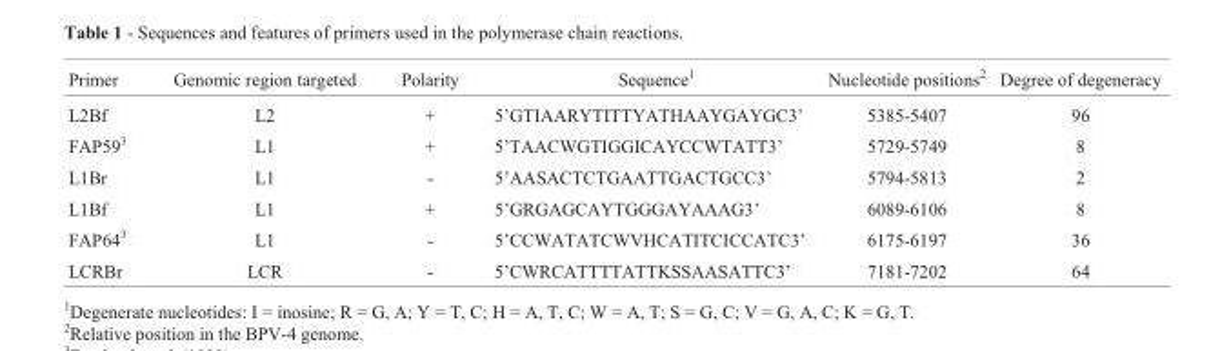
<table><thead><tr><td>Primer</td><td>Genomic region targeted</td><td>Polarity</td><td>Sequence<sup>1</sup></td><td>Nucleotide positions<sup>2</sup></td><td>Degree of degeneracy</td></tr></thead><tbody><tr><td>L2Bf</td><td>L2</td><td>+</td><td>5’GTIAARYTITTYATHAAYGAYGC3’</td><td>5385-5407</td><td>96</td></tr><tr><td>FAP59<sup>3</sup></td><td>L1</td><td>+</td><td>5’TAACWGTIGGICAYCCWTATT3’</td><td>5729-5749</td><td>8</td></tr><tr><td>L1Br</td><td>L1</td><td>-</td><td>5’AASACTCTGAATTGACTGCC3’</td><td>5794-5813</td><td>2</td></tr><tr><td>L1Bf</td><td>L1</td><td>+</td><td>5’GRGAGCAYTGGGAYAAAG3’</td><td>6089-6106</td><td>8</td></tr><tr><td>FAP64<sup>3</sup></td><td>L1</td><td>-</td><td>5’CCWATATCWVHCATITCICCATC3’</td><td>6175-6197</td><td>36</td></tr><tr><td>LCRBr</td><td>LCR</td><td>-</td><td>5’CWRCATTTTATTKSSAASATTC3’</td><td>7181-7202</td><td>64</td></tr></tbody></table>